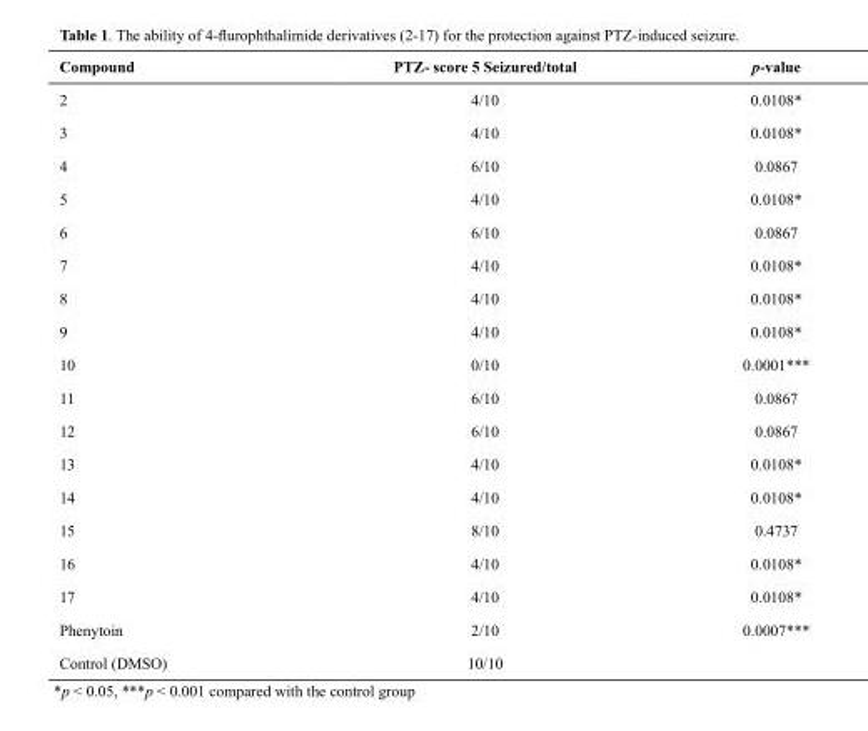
<table><thead><tr><td>Compound</td><td>PTZ- score 5 Seizured/total</td><td>p-value</td></tr></thead><tbody><tr><td>2</td><td>4/10</td><td>0.0108*</td></tr><tr><td>3</td><td>4/10</td><td>0.0108*</td></tr><tr><td>4</td><td>6/10</td><td>0.0867</td></tr><tr><td>5</td><td>4/10</td><td>0.0108*</td></tr><tr><td>6</td><td>6/10</td><td>0.0867</td></tr><tr><td>7</td><td>4/10</td><td>0.0108*</td></tr><tr><td>8</td><td>4/10</td><td>0.0108*</td></tr><tr><td>9</td><td>4/10</td><td>0.0108*</td></tr><tr><td>10</td><td>0/10</td><td>0.0001***</td></tr><tr><td>11</td><td>6/10</td><td>0.0867</td></tr><tr><td>12</td><td>6/10</td><td>0.0867</td></tr><tr><td>13</td><td>4/10</td><td>0.0108*</td></tr><tr><td>14</td><td>4/10</td><td>0.0108*</td></tr><tr><td>15</td><td>8/10</td><td>0.4737</td></tr><tr><td>16</td><td>4/10</td><td>0.0108*</td></tr><tr><td>17</td><td>4/10</td><td>0.0108*</td></tr><tr><td>Phenytoin</td><td>2/10</td><td>0.0007***</td></tr><tr><td>Control (DMSO)</td><td>10/10</td><td></td></tr></tbody></table>